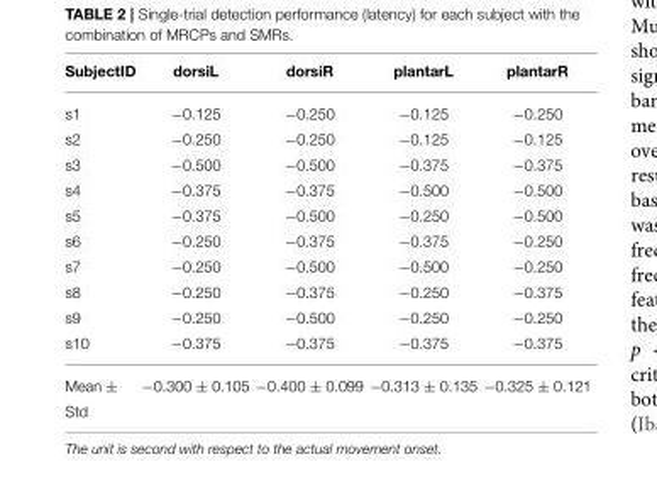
<table><thead><tr><td>SubjectID</td><td>dorsiL</td><td>dorsiR</td><td>plantarL</td><td>plantarR</td></tr></thead><tbody><tr><td>s1</td><td>−0.125</td><td>−0.250</td><td>−0.125</td><td>−0.250</td></tr><tr><td>s2</td><td>−0.250</td><td>−0.250</td><td>−0.125</td><td>−0.125</td></tr><tr><td>s3</td><td>−0.500</td><td>−0.500</td><td>−0.375</td><td>−0.375</td></tr><tr><td>s4</td><td>−0.375</td><td>−0.375</td><td>−0.500</td><td>−0.500</td></tr><tr><td>s5</td><td>−0.375</td><td>−0.500</td><td>−0.250</td><td>−0.500</td></tr><tr><td>s6</td><td>−0.250</td><td>−0.375</td><td>−0.375</td><td>−0.250</td></tr><tr><td>s7</td><td>−0.250</td><td>−0.500</td><td>−0.500</td><td>−0.250</td></tr><tr><td>s8</td><td>−0.250</td><td>−0.375</td><td>−0.250</td><td>−0.375</td></tr><tr><td>s9</td><td>−0.250</td><td>−0.500</td><td>−0.250</td><td>−0.250</td></tr><tr><td>s10</td><td>−0.375</td><td>−0.375</td><td>−0.375</td><td>−0.375</td></tr><tr><td>Mean ±</td><td>−0.300 ± 0.105</td><td>−0.400 ± 0.099</td><td>−0.313 ± 0.135</td><td>−0.325 ± 0.121</td></tr><tr><td>Std</td><td></td><td></td><td></td><td></td></tr></tbody></table>